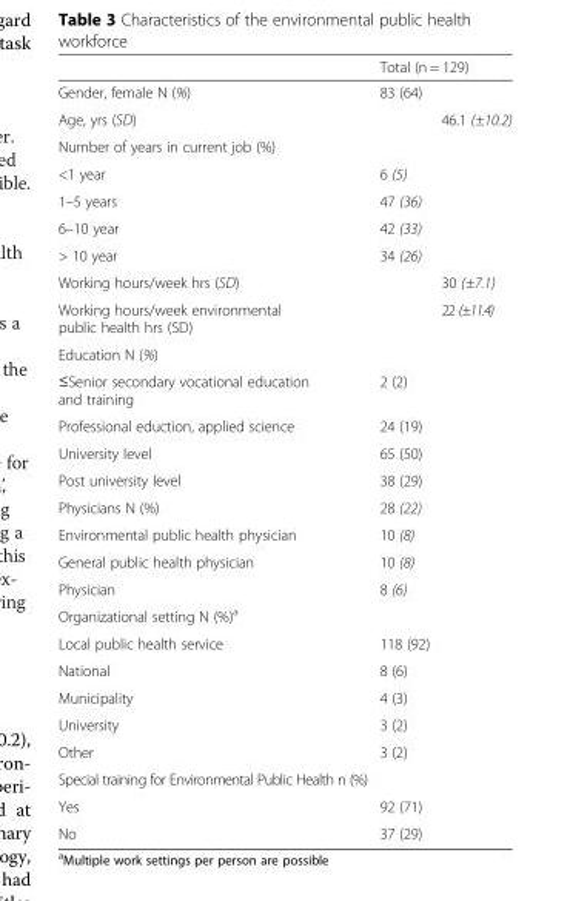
<table><thead><tr><td rowspan="2">Gender, female N (%)</td><td colspan="2">Total (n = 129)</td></tr><tr><td>83 (64)</td><td></td></tr></thead><tbody><tr><td>Age, yrs (SD)</td><td></td><td>46.1 (±10.2)</td></tr><tr><td colspan="3">Number of years in current job (%)</td></tr><tr><td>&lt;1 year</td><td>6 (5)</td><td></td></tr><tr><td>1–5 years</td><td>47 (36)</td><td></td></tr><tr><td>6–10 year</td><td>42 (33)</td><td></td></tr><tr><td>&gt; 10 year</td><td>34 (26)</td><td></td></tr><tr><td>Working hours/week hrs (SD)</td><td></td><td>30 (±7.1)</td></tr><tr><td>Working hours/week environmental public health hrs (SD)</td><td></td><td>22 (±11.4)</td></tr><tr><td colspan="3">Education N (%)</td></tr><tr><td>≤Senior secondary vocational education and training</td><td>2 (2)</td><td></td></tr><tr><td>Professional eduction, applied science</td><td>24 (19)</td><td></td></tr><tr><td>University level</td><td>65 (50)</td><td></td></tr><tr><td>Post university level</td><td>38 (29)</td><td></td></tr><tr><td>Physicians N (%)</td><td>28 (22)</td><td></td></tr><tr><td>Environmental public health physician</td><td>10 (8)</td><td></td></tr><tr><td>General public health physician</td><td>10 (8)</td><td></td></tr><tr><td>Physician</td><td>8 (6)</td><td></td></tr><tr><td colspan="3">Organizational setting N (%)<sup>a</sup></td></tr><tr><td>Local public health service</td><td>118 (92)</td><td></td></tr><tr><td>National</td><td>8 (6)</td><td></td></tr><tr><td>Municipality</td><td>4 (3)</td><td></td></tr><tr><td>University</td><td>3 (2)</td><td></td></tr><tr><td>Other</td><td>3 (2)</td><td></td></tr><tr><td colspan="3">Special training for Environmental Public Health n (%)</td></tr><tr><td>Yes</td><td>92 (71)</td><td></td></tr><tr><td>No</td><td>37 (29)</td><td></td></tr></tbody></table>